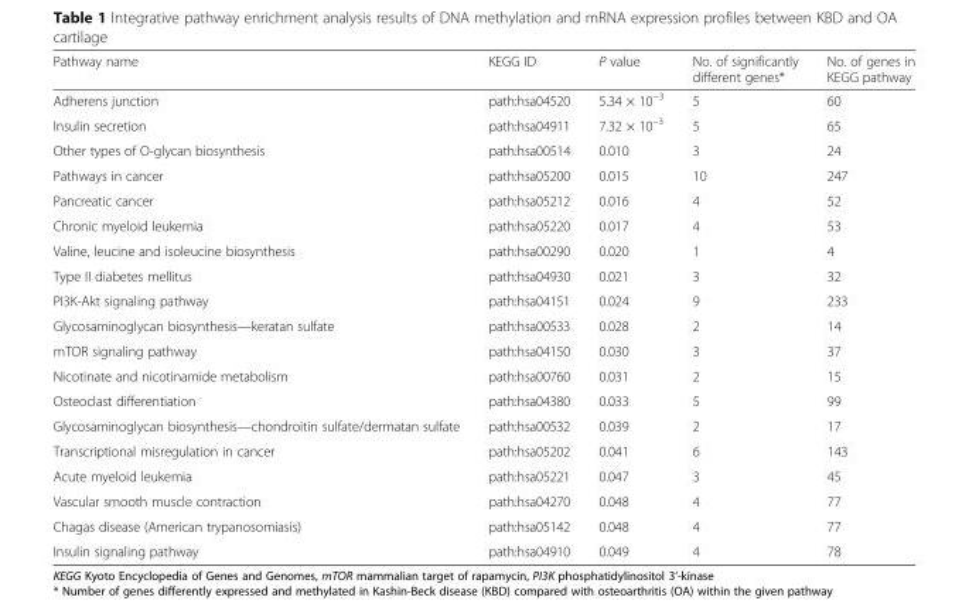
<table><thead><tr><td>Pathway name</td><td>KEGG ID</td><td>P value</td><td>No. of significantly different genes*</td><td>No. of genes in KEGG pathway</td></tr></thead><tbody><tr><td>Adherens junction</td><td>path:hsa04520</td><td>5.34 × 10<sup>−3</sup></td><td>5</td><td>60</td></tr><tr><td>Insulin secretion</td><td>path:hsa04911</td><td>7.32 × 10<sup>–3</sup></td><td>5</td><td>65</td></tr><tr><td>Other types of O-glycan biosynthesis</td><td>path:hsa00514</td><td>0.010</td><td>3</td><td>24</td></tr><tr><td>Pathways in cancer</td><td>path:hsa05200</td><td>0.015</td><td>10</td><td>247</td></tr><tr><td>Pancreatic cancer</td><td>path:hsa05212</td><td>0.016</td><td>4</td><td>52</td></tr><tr><td>Chronic myeloid leukemia</td><td>path:hsa05220</td><td>0.017</td><td>4</td><td>53</td></tr><tr><td>Valine, leucine and isoleucine biosynthesis</td><td>path:hsa00290</td><td>0.020</td><td>1</td><td>4</td></tr><tr><td>Type II diabetes mellitus</td><td>path:hsa04930</td><td>0.021</td><td>3</td><td>32</td></tr><tr><td>PI3K-Akt signaling pathway</td><td>path:hsa04151</td><td>0.024</td><td>9</td><td>233</td></tr><tr><td>Glycosaminoglycan biosynthesis—keratan sulfate</td><td>path:hsa00533</td><td>0.028</td><td>2</td><td>14</td></tr><tr><td>mTOR signaling pathway</td><td>path:hsa04150</td><td>0.030</td><td>3</td><td>37</td></tr><tr><td>Nicotinate and nicotinamide metabolism</td><td>path:hsa00760</td><td>0.031</td><td>2</td><td>15</td></tr><tr><td>Osteoclast differentiation</td><td>path:hsa04380</td><td>0.033</td><td>5</td><td>99</td></tr><tr><td>Glycosaminoglycan biosynthesis—chondroitin sulfate/dermatan sulfate</td><td>path:hsa00532</td><td>0.039</td><td>2</td><td>17</td></tr><tr><td>Transcriptional misregulation in cancer</td><td>path:hsa05202</td><td>0.041</td><td>6</td><td>143</td></tr><tr><td>Acute myeloid leukemia</td><td>path:hsa05221</td><td>0.047</td><td>3</td><td>45</td></tr><tr><td>Vascular smooth muscle contraction</td><td>path:hsa04270</td><td>0.048</td><td>4</td><td>77</td></tr><tr><td>Chagas disease (American trypanosomiasis)</td><td>path:hsa05142</td><td>0.048</td><td>4</td><td>77</td></tr><tr><td>Insulin signaling pathway</td><td>path:hsa04910</td><td>0.049</td><td>4</td><td>78</td></tr></tbody></table>